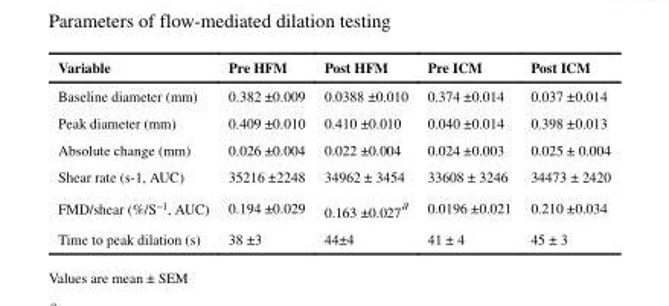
<table><thead><tr><td>Variable</td><td>Pre HFM</td><td>Post HFM</td><td>Pre ICM</td><td>Post ICM</td></tr></thead><tbody><tr><td>Baseline diameter (mm)</td><td>0.382 ±0.009</td><td>0.0388 ±0.010</td><td>0.374 ±0.014</td><td>0.037 ±0.014</td></tr><tr><td>Peak diameter (mm)</td><td>0.409 ±0.010</td><td>0.410 ±0.010</td><td>0.040 ±0.014</td><td>0.398 ±0.013</td></tr><tr><td>Absolute change (mm)</td><td>0.026 ±0.004</td><td>0.022 ±0.004</td><td>0.024 ±0.003</td><td>0.025 ± 0.004</td></tr><tr><td>Shear rate (s-1, AUC)</td><td>35216 ±2248</td><td>34962 ± 3454</td><td>33608 ± 3246</td><td>34473 ± 2420</td></tr><tr><td>FMD/shear (%/S<sup>−1</sup>, AUC)</td><td>0.194 ±0.029</td><td>0.163 ±0.027<sup>a</sup></td><td>0.0196 ±0.021</td><td>0.210 ±0.034</td></tr><tr><td>Time to peak dilation (s)</td><td>38 ±3</td><td>44±4</td><td>41 ± 4</td><td>45 ± 3</td></tr></tbody></table>